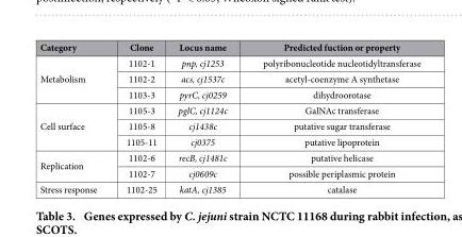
<table><thead><tr><td>Category</td><td>Clone</td><td>Locus name</td><td>Predicted fuction or property</td></tr></thead><tbody><tr><td rowspan="3">Metabolism</td><td>1102-1</td><td>pnp, cj1253</td><td>polyribonucleotide nucleotidyltransferase</td></tr><tr><td>1102-2</td><td>acs, cj1537c</td><td>acetyl-coenzyme A synthetase</td></tr><tr><td>1103-3</td><td>pyrC, cj0259</td><td>dihydroorotase</td></tr><tr><td rowspan="3">Cell surface</td><td>1105-3</td><td>pglC, cj1124c</td><td>GalNAc transferase</td></tr><tr><td>1105-8</td><td>cj1438c</td><td>putative sugar transferase</td></tr><tr><td>1105-11</td><td>cj0375</td><td>putative lipoprotein</td></tr><tr><td rowspan="2">Replication</td><td>1102-6</td><td>recB, cj1481c</td><td>putative helicase</td></tr><tr><td>1102-7</td><td>cj0609c</td><td>possible periplasmic protein</td></tr><tr><td>Stress response</td><td>1102-25</td><td>katA, cj1385</td><td>catalase</td></tr></tbody></table>